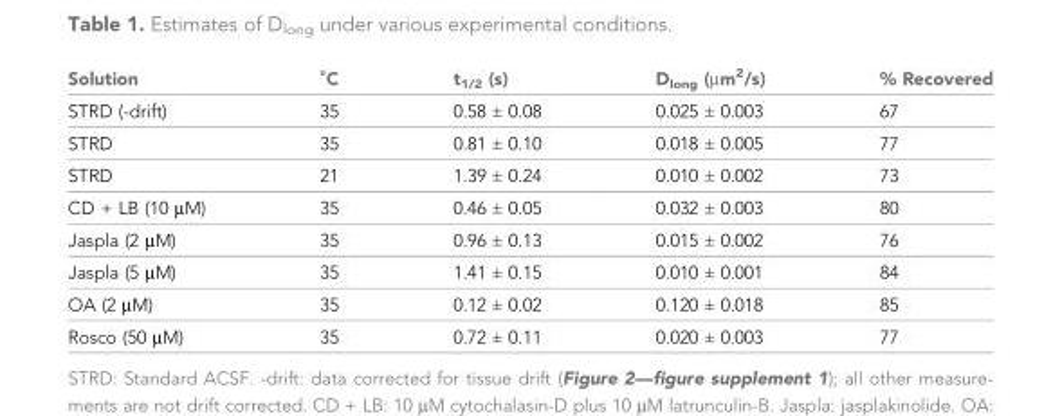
<table><thead><tr><td>Solution</td><td>˚C</td><td>t<sub>1/2</sub> (s)</td><td>D<sub>long</sub> (µm<sup>2</sup>/s)</td><td>% Recovered</td></tr></thead><tbody><tr><td>STRD (-drift)</td><td>35</td><td>0.58 ± 0.08</td><td>0.025 ± 0.003</td><td>67</td></tr><tr><td>STRD</td><td>35</td><td>0.81 ± 0.10</td><td>0.018 ± 0.005</td><td>77</td></tr><tr><td>STRD</td><td>21</td><td>1.39 ± 0.24</td><td>0.010 ± 0.002</td><td>73</td></tr><tr><td>CD + LB (10 µM)</td><td>35</td><td>0.46 ± 0.05</td><td>0.032 ± 0.003</td><td>80</td></tr><tr><td>Jaspla (2 µM)</td><td>35</td><td>0.96 ± 0.13</td><td>0.015 ± 0.002</td><td>76</td></tr><tr><td>Jaspla (5 µM)</td><td>35</td><td>1.41 ± 0.15</td><td>0.010 ± 0.001</td><td>84</td></tr><tr><td>OA (2 µM)</td><td>35</td><td>0.12 ± 0.02</td><td>0.120 ± 0.018</td><td>85</td></tr><tr><td>Rosco (50 µM)</td><td>35</td><td>0.72 ± 0.11</td><td>0.020 ± 0.003</td><td>77</td></tr></tbody></table>